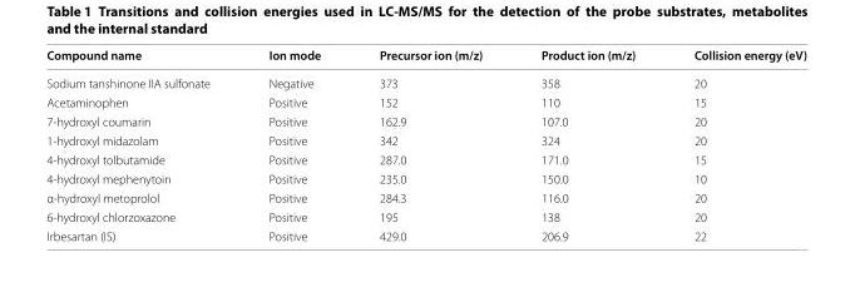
<table><thead><tr><td>Compound name</td><td>Ion mode</td><td>Precursor ion (m/z)</td><td>Product ion (m/z)</td><td>Collision energy (eV)</td></tr></thead><tbody><tr><td>Sodium tanshinone IIA sulfonate</td><td>Negative</td><td>373</td><td>358</td><td>20</td></tr><tr><td>Acetaminophen</td><td>Positive</td><td>152</td><td>110</td><td>15</td></tr><tr><td>7‑hydroxyl coumarin</td><td>Positive</td><td>162.9</td><td>107.0</td><td>20</td></tr><tr><td>1‑hydroxyl midazolam</td><td>Positive</td><td>342</td><td>324</td><td>20</td></tr><tr><td>4‑hydroxyl tolbutamide</td><td>Positive</td><td>287.0</td><td>171.0</td><td>15</td></tr><tr><td>4‑hydroxyl mephenytoin</td><td>Positive</td><td>235.0</td><td>150.0</td><td>10</td></tr><tr><td>α‑hydroxyl metoprolol</td><td>Positive</td><td>284.3</td><td>116.0</td><td>20</td></tr><tr><td>6‑hydroxyl chlorzoxazone</td><td>Positive</td><td>195</td><td>138</td><td>20</td></tr><tr><td>Irbesartan (IS)</td><td>Positive</td><td>429.0</td><td>206.9</td><td>22</td></tr></tbody></table>